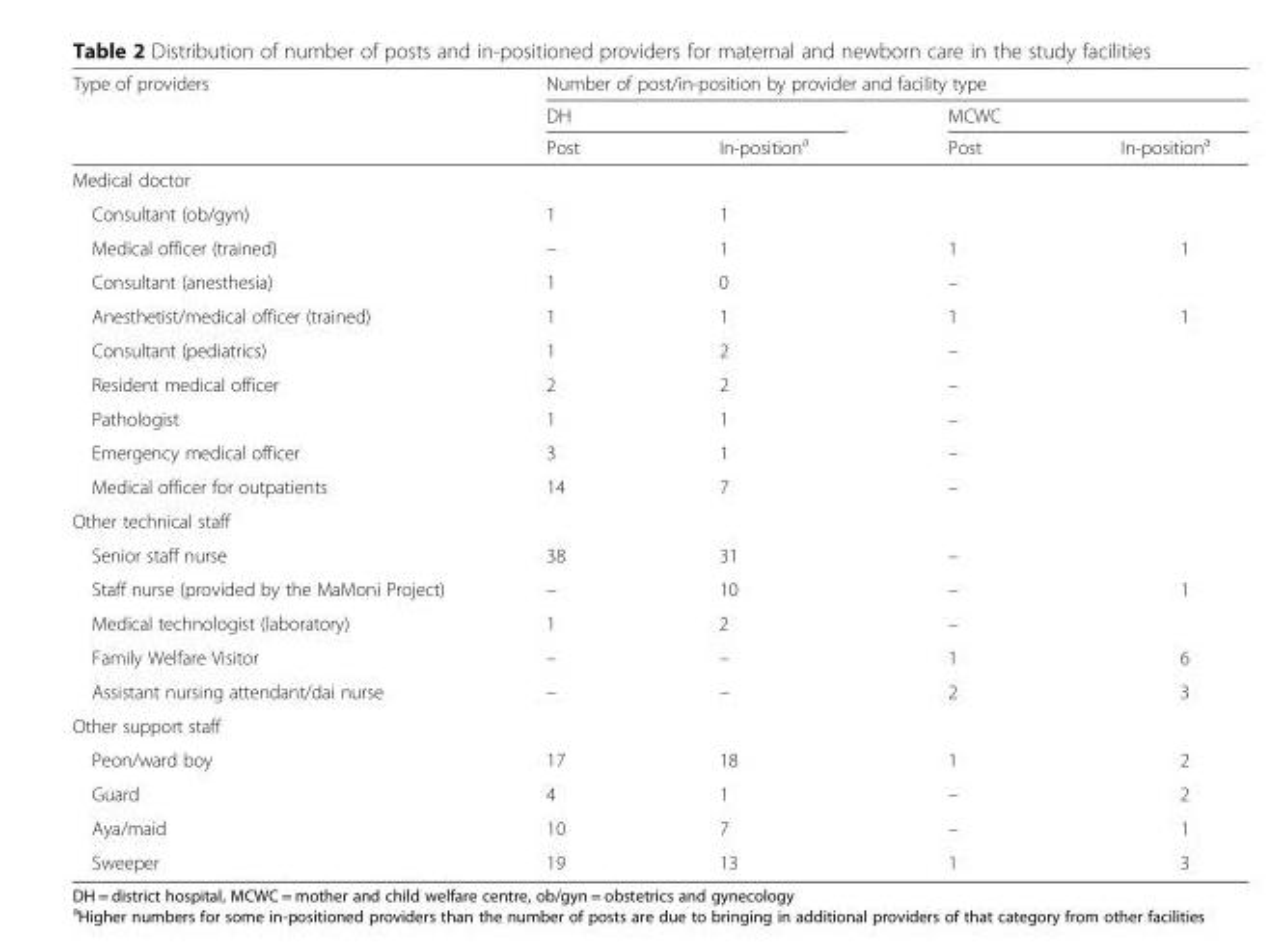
<table><thead><tr><td rowspan="3">Type of providers</td><td colspan="4">Number of post/in-position by provider and facility type</td></tr><tr><td colspan="2">DH</td><td colspan="2">MCWC</td></tr><tr><td>Post</td><td>In-position<sup>a</sup></td><td>Post</td><td>In-position<sup>a</sup></td></tr></thead><tbody><tr><td colspan="5">Medical doctor</td></tr><tr><td>Consultant (ob/gyn)</td><td>1</td><td>1</td><td></td><td></td></tr><tr><td>Medical officer (trained)</td><td>–</td><td>1</td><td>1</td><td>1</td></tr><tr><td>Consultant (anesthesia)</td><td>1</td><td>0</td><td>–</td><td></td></tr><tr><td>Anesthetist/medical officer (trained)</td><td>1</td><td>1</td><td>1</td><td>1</td></tr><tr><td>Consultant (pediatrics)</td><td>1</td><td>2</td><td>–</td><td></td></tr><tr><td>Resident medical officer</td><td>2</td><td>2</td><td>–</td><td></td></tr><tr><td>Pathologist</td><td>1</td><td>1</td><td>–</td><td></td></tr><tr><td>Emergency medical officer</td><td>3</td><td>1</td><td>–</td><td></td></tr><tr><td>Medical officer for outpatients</td><td>14</td><td>7</td><td>–</td><td></td></tr><tr><td colspan="5">Other technical staff</td></tr><tr><td>Senior staff nurse</td><td>38</td><td>31</td><td>–</td><td></td></tr><tr><td>Staff nurse (provided by the MaMoni Project)</td><td>–</td><td>10</td><td>–</td><td>1</td></tr><tr><td>Medical technologist (laboratory)</td><td>1</td><td>2</td><td>–</td><td></td></tr><tr><td>Family Welfare Visitor</td><td>–</td><td>–</td><td>1</td><td>6</td></tr><tr><td>Assistant nursing attendant/dai nurse</td><td>–</td><td>–</td><td>2</td><td>3</td></tr><tr><td colspan="5">Other support staff</td></tr><tr><td>Peon/ward boy</td><td>17</td><td>18</td><td>1</td><td>2</td></tr><tr><td>Guard</td><td>4</td><td>1</td><td>–</td><td>2</td></tr><tr><td>Aya/maid</td><td>10</td><td>7</td><td>–</td><td>1</td></tr><tr><td>Sweeper</td><td>19</td><td>13</td><td>1</td><td>3</td></tr></tbody></table>